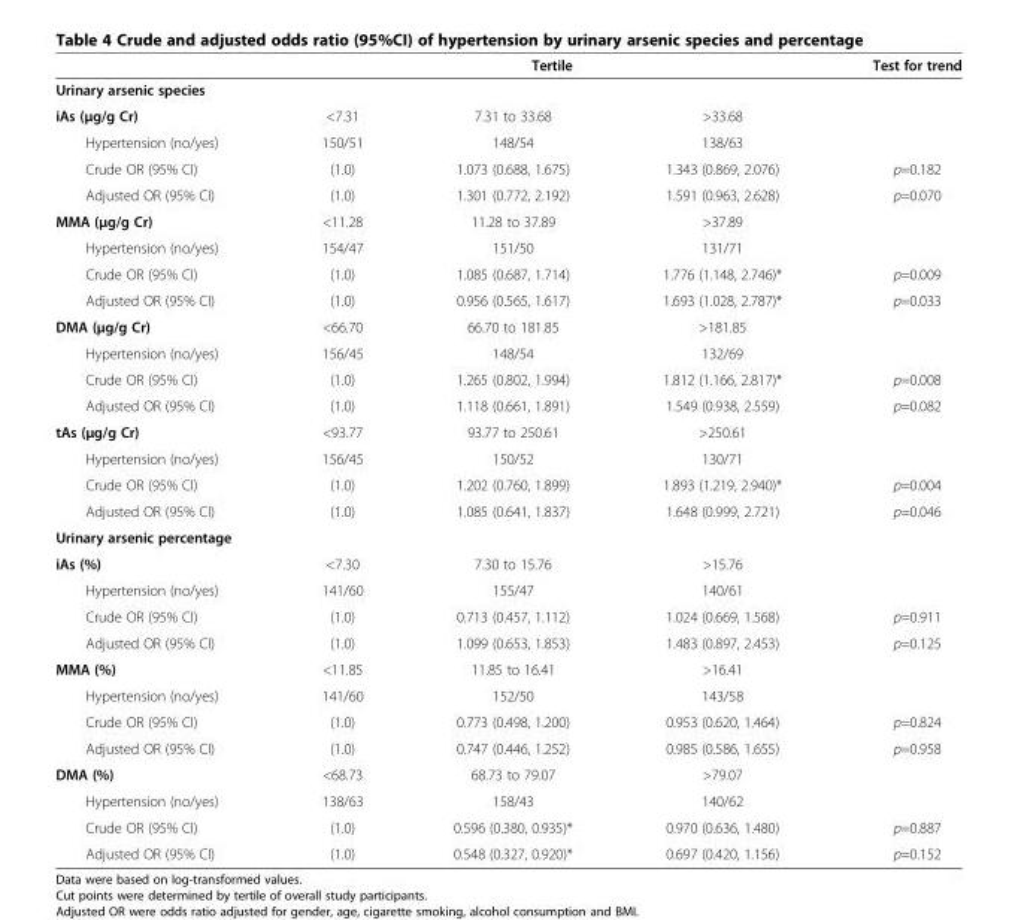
<table><thead><tr><td rowspan="3">Urinary arsenic species iAs (μg/g Cr)</td><td rowspan="2" colspan="3">Tertile</td><td rowspan="3">Test for trend</td></tr><tr></tr><tr><td>&lt;7.31</td><td>7.31 to 33.68</td><td>&gt;33.68</td></tr></thead><tbody><tr><td>Hypertension (no/yes)</td><td>150/51</td><td>148/54</td><td>138/63</td><td></td></tr><tr><td>Crude OR (95% CI)</td><td>(1.0)</td><td>1.073 (0.688, 1.675)</td><td>1.343 (0.869, 2.076)</td><td>p=0.182</td></tr><tr><td>Adjusted OR (95% CI)</td><td>(1.0)</td><td>1.301 (0.772, 2.192)</td><td>1.591 (0.963, 2.628)</td><td>p=0.070</td></tr><tr><td>MMA (μg/g Cr)</td><td>&lt;11.28</td><td>11.28 to 37.89</td><td>&gt;37.89</td><td></td></tr><tr><td>Hypertension (no/yes)</td><td>154/47</td><td>151/50</td><td>131/71</td><td></td></tr><tr><td>Crude OR (95% CI)</td><td>(1.0)</td><td>1.085 (0.687, 1.714)</td><td>1.776 (1.148, 2.746)*</td><td>p=0.009</td></tr><tr><td>Adjusted OR (95% CI)</td><td>(1.0)</td><td>0.956 (0.565, 1.617)</td><td>1.693 (1.028, 2.787)*</td><td>p=0.033</td></tr><tr><td>DMA (μg/g Cr)</td><td>&lt;66.70</td><td>66.70 to 181.85</td><td>&gt;181.85</td><td></td></tr><tr><td>Hypertension (no/yes)</td><td>156/45</td><td>148/54</td><td>132/69</td><td></td></tr><tr><td>Crude OR (95% CI)</td><td>(1.0)</td><td>1.265 (0.802, 1.994)</td><td>1.812 (1.166, 2.817)*</td><td>p=0.008</td></tr><tr><td>Adjusted OR (95% CI)</td><td>(1.0)</td><td>1.118 (0.661, 1.891)</td><td>1.549 (0.938, 2.559)</td><td>p=0.082</td></tr><tr><td>tAs (μg/g Cr)</td><td>&lt;93.77</td><td>93.77 to 250.61</td><td>&gt;250.61</td><td></td></tr><tr><td>Hypertension (no/yes)</td><td>156/45</td><td>150/52</td><td>130/71</td><td></td></tr><tr><td>Crude OR (95% CI)</td><td>(1.0)</td><td>1.202 (0.760, 1.899)</td><td>1.893 (1.219, 2.940)*</td><td>p=0.004</td></tr><tr><td>Adjusted OR (95% CI)</td><td>(1.0)</td><td>1.085 (0.641, 1.837)</td><td>1.648 (0.999, 2.721)</td><td>p=0.046</td></tr><tr><td colspan="5">Urinary arsenic percentage</td></tr><tr><td>iAs (%)</td><td>&lt;7.30</td><td>7.30 to 15.76</td><td>&gt;15.76</td><td></td></tr><tr><td>Hypertension (no/yes)</td><td>141/60</td><td>155/47</td><td>140/61</td><td></td></tr><tr><td>Crude OR (95% CI)</td><td>(1.0)</td><td>0.713 (0.457, 1.112)</td><td>1.024 (0.669, 1.568)</td><td>p=0.911</td></tr><tr><td>Adjusted OR (95% CI)</td><td>(1.0)</td><td>1.099 (0.653, 1.853)</td><td>1.483 (0.897, 2.453)</td><td>p=0.125</td></tr><tr><td>MMA (%)</td><td>&lt;11.85</td><td>11.85 to 16.41</td><td>&gt;16.41</td><td></td></tr><tr><td>Hypertension (no/yes)</td><td>141/60</td><td>152/50</td><td>143/58</td><td></td></tr><tr><td>Crude OR (95% CI)</td><td>(1.0)</td><td>0.773 (0.498, 1.200)</td><td>0.953 (0.620, 1.464)</td><td>p=0.824</td></tr><tr><td>Adjusted OR (95% CI)</td><td>(1.0)</td><td>0.747 (0.446, 1.252)</td><td>0.985 (0.586, 1.655)</td><td>p=0.958</td></tr><tr><td>DMA (%)</td><td>&lt;68.73</td><td>68.73 to 79.07</td><td>&gt;79.07</td><td></td></tr><tr><td>Hypertension (no/yes)</td><td>138/63</td><td>158/43</td><td>140/62</td><td></td></tr><tr><td>Crude OR (95% CI)</td><td>(1.0)</td><td>0.596 (0.380, 0.935)*</td><td>0.970 (0.636, 1.480)</td><td>p=0.887</td></tr><tr><td>Adjusted OR (95% CI)</td><td>(1.0)</td><td>0.548 (0.327, 0.920)*</td><td>0.697 (0.420, 1.156)</td><td>p=0.152</td></tr></tbody></table>